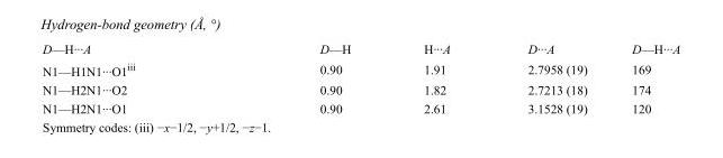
<table><tbody><tr><td>D—H···A</td><td>D—H</td><td>H···A</td><td>D···A</td><td>D—H···A</td></tr><tr><td>N1—H1N1···O1<sup>iii</sup></td><td>0.90</td><td>1.91</td><td>2.7958 (19)</td><td>169</td></tr><tr><td>N1—H2N1···O2</td><td>0.90</td><td>1.82</td><td>2.7213 (18)</td><td>174</td></tr><tr><td>N1—H2N1···O1</td><td>0.90</td><td>2.61</td><td>3.1528 (19)</td><td>120</td></tr></tbody></table>